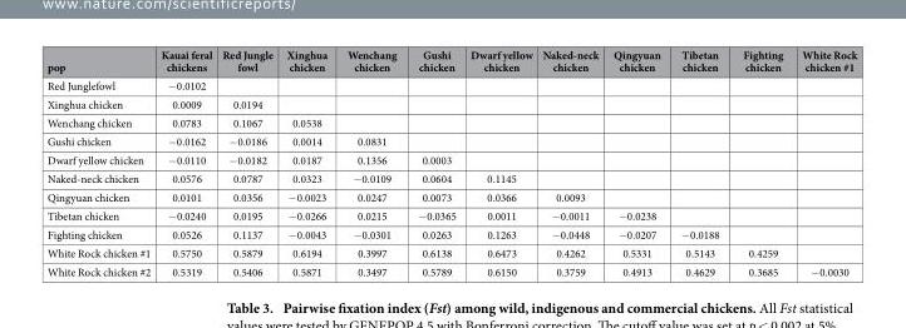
<table><thead><tr><td>pop</td><td>Kauai feral chickens</td><td>Red Jungle fowl</td><td>Xinghua chicken</td><td>Wenchang chicken</td><td>Gushi chicken</td><td>Dwarf yellow chicken</td><td>Naked-neck chicken</td><td>Qingyuan chicken</td><td>Tibetan chicken</td><td>Fighting chicken</td><td>White Rock chicken #1</td></tr></thead><tbody><tr><td>Red Junglefowl</td><td>− 0.0102</td><td></td><td></td><td></td><td></td><td></td><td></td><td></td><td></td><td></td><td></td></tr><tr><td>Xinghua chicken</td><td>0.0009</td><td>0.0194</td><td></td><td></td><td></td><td></td><td></td><td></td><td></td><td></td><td></td></tr><tr><td>Wenchang chicken</td><td>0.0783</td><td>0.1067</td><td>0.0538</td><td></td><td></td><td></td><td></td><td></td><td></td><td></td><td></td></tr><tr><td>Gushi chicken</td><td>− 0.0162</td><td>− 0.0186</td><td>0.0014</td><td>0.0831</td><td></td><td></td><td></td><td></td><td></td><td></td><td></td></tr><tr><td>Dwarf yellow chicken</td><td>− 0.0110</td><td>− 0.0182</td><td>0.0187</td><td>0.1356</td><td>0.0003</td><td></td><td></td><td></td><td></td><td></td><td></td></tr><tr><td>Naked-neck chicken</td><td>0.0576</td><td>0.0787</td><td>0.0323</td><td>− 0.0109</td><td>0.0604</td><td>0.1145</td><td></td><td></td><td></td><td></td><td></td></tr><tr><td>Qingyuan chicken</td><td>0.0101</td><td>0.0356</td><td>− 0.0023</td><td>0.0247</td><td>0.0073</td><td>0.0366</td><td>0.0093</td><td></td><td></td><td></td><td></td></tr><tr><td>Tibetan chicken</td><td>− 0.0240</td><td>0.0195</td><td>− 0.0266</td><td>0.0215</td><td>− 0.0365</td><td>0.0011</td><td>− 0.0011</td><td>− 0.0238</td><td></td><td></td><td></td></tr><tr><td>Fighting chicken</td><td>0.0526</td><td>0.1137</td><td>− 0.0043</td><td>− 0.0301</td><td>0.0263</td><td>0.1263</td><td>− 0.0448</td><td>− 0.0207</td><td>− 0.0188</td><td></td><td></td></tr><tr><td>White Rock chicken #1</td><td>0.5750</td><td>0.5879</td><td>0.6194</td><td>0.3997</td><td>0.6138</td><td>0.6473</td><td>0.4262</td><td>0.5331</td><td>0.5143</td><td>0.4259</td><td></td></tr><tr><td>White Rock chicken #2</td><td>0.5319</td><td>0.5406</td><td>0.5871</td><td>0.3497</td><td>0.5789</td><td>0.6150</td><td>0.3759</td><td>0.4913</td><td>0.4629</td><td>0.3685</td><td>− 0.0030</td></tr></tbody></table>